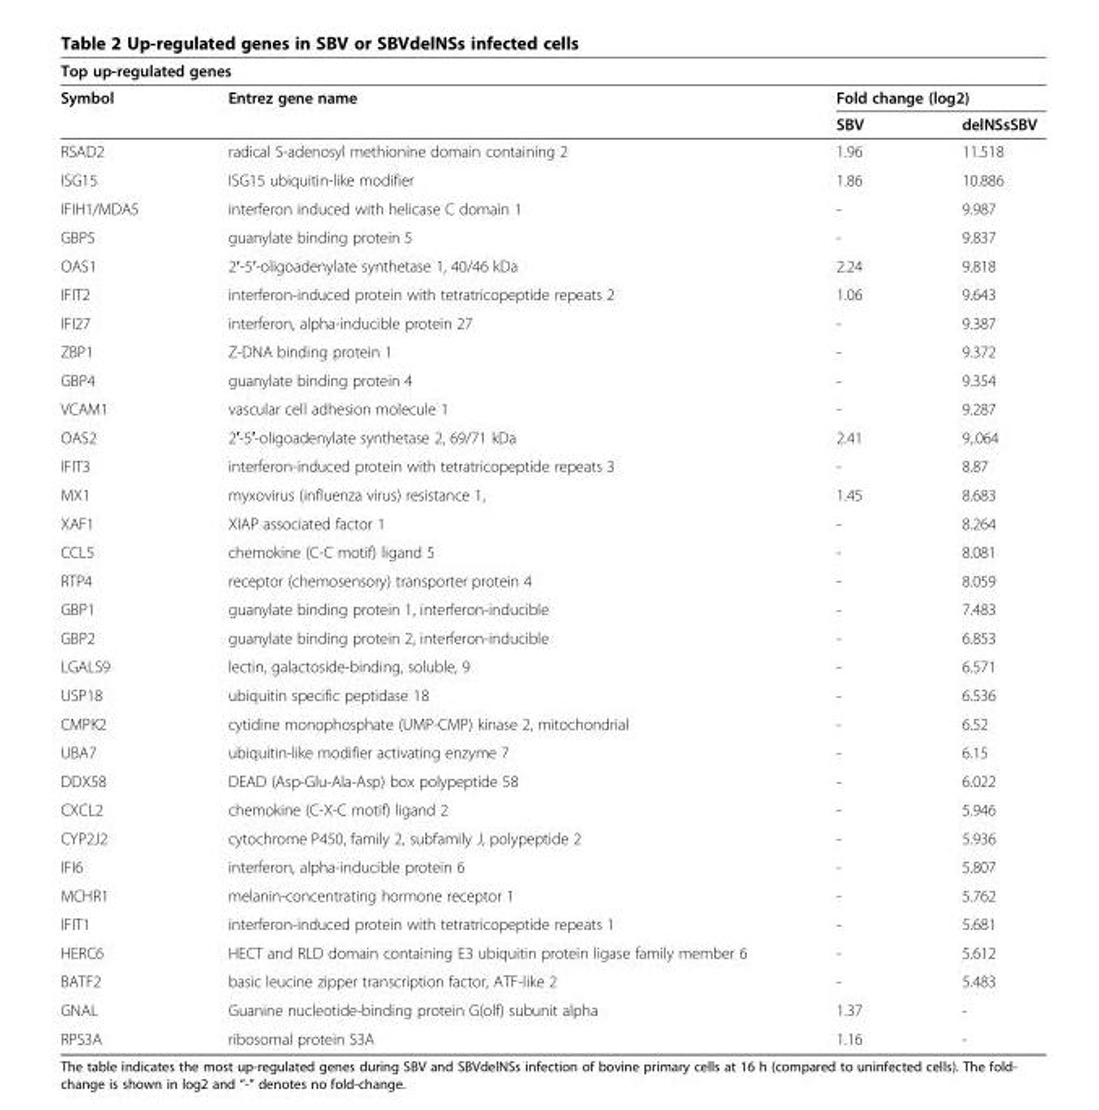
<table><thead><tr><td colspan="4">Top up-regulated genes</td></tr><tr><td rowspan="2">Symbol</td><td rowspan="2">Entrez gene name</td><td colspan="2">Fold change (log2)</td></tr><tr><td>SBV</td><td>delNSsSBV</td></tr></thead><tbody><tr><td>RSAD2</td><td>radical S-adenosyl methionine domain containing 2</td><td>1.96</td><td>11.518</td></tr><tr><td>ISG15</td><td>ISG15 ubiquitin-like modifier</td><td>1.86</td><td>10.886</td></tr><tr><td>IFIH1/MDA5</td><td>interferon induced with helicase C domain 1</td><td>-</td><td>9.987</td></tr><tr><td>GBP5</td><td>guanylate binding protein 5</td><td>-</td><td>9.837</td></tr><tr><td>OAS1</td><td>2′-5′-oligoadenylate synthetase 1, 40/46 kDa</td><td>2.24</td><td>9.818</td></tr><tr><td>IFIT2</td><td>interferon-induced protein with tetratricopeptide repeats 2</td><td>1.06</td><td>9.643</td></tr><tr><td>IFI27</td><td>interferon, alpha-inducible protein 27</td><td>-</td><td>9.387</td></tr><tr><td>ZBP1</td><td>Z-DNA binding protein 1</td><td>-</td><td>9.372</td></tr><tr><td>GBP4</td><td>guanylate binding protein 4</td><td>-</td><td>9.354</td></tr><tr><td>VCAM1</td><td>vascular cell adhesion molecule 1</td><td>-</td><td>9.287</td></tr><tr><td>OAS2</td><td>2′-5′-oligoadenylate synthetase 2, 69/71 kDa</td><td>2.41</td><td>9,.064</td></tr><tr><td>IFIT3</td><td>interferon-induced protein with tetratricopeptide repeats 3</td><td>-</td><td>8.87</td></tr><tr><td>MX1</td><td>myxovirus (influenza virus) resistance 1,</td><td>1.45</td><td>8.683</td></tr><tr><td>XAF1</td><td>XIAP associated factor 1</td><td>-</td><td>8.264</td></tr><tr><td>CCL5</td><td>chemokine (C-C motif) ligand 5</td><td>-</td><td>8.081</td></tr><tr><td>RTP4</td><td>receptor (chemosensory) transporter protein 4</td><td>-</td><td>8.059</td></tr><tr><td>GBP1</td><td>guanylate binding protein 1, interferon-inducible</td><td>-</td><td>7.483</td></tr><tr><td>GBP2</td><td>guanylate binding protein 2, interferon-inducible</td><td>-</td><td>6.853</td></tr><tr><td>LGALS9</td><td>lectin, galactoside-binding, soluble, 9</td><td>-</td><td>6.571</td></tr><tr><td>USP18</td><td>ubiquitin specific peptidase 18</td><td>-</td><td>6.536</td></tr><tr><td>CMPK2</td><td>cytidine monophosphate (UMP-CMP) kinase 2, mitochondrial</td><td>-</td><td>6.52</td></tr><tr><td>UBA7</td><td>ubiquitin-like modifier activating enzyme 7</td><td>-</td><td>6.15</td></tr><tr><td>DDX58</td><td>DEAD (Asp-Glu-Ala-Asp) box polypeptide 58</td><td>-</td><td>6.022</td></tr><tr><td>CXCL2</td><td>chemokine (C-X-C motif) ligand 2</td><td>-</td><td>5.946</td></tr><tr><td>CYP2J2</td><td>cytochrome P450, family 2, subfamily J, polypeptide 2</td><td>-</td><td>5.936</td></tr><tr><td>IFI6</td><td>interferon, alpha-inducible protein 6</td><td>-</td><td>5.807</td></tr><tr><td>MCHR1</td><td>melanin-concentrating hormone receptor 1</td><td>-</td><td>5.762</td></tr><tr><td>IFIT1</td><td>interferon-induced protein with tetratricopeptide repeats 1</td><td>-</td><td>5.681</td></tr><tr><td>HERC6</td><td>HECT and RLD domain containing E3 ubiquitin protein ligase family member 6</td><td>-</td><td>5.612</td></tr><tr><td>BATF2</td><td>basic leucine zipper transcription factor, ATF-like 2</td><td>-</td><td>5.483</td></tr><tr><td>GNAL</td><td>Guanine nucleotide-binding protein G(olf) subunit alpha</td><td>1.37</td><td>-</td></tr><tr><td>RPS3A</td><td>ribosomal protein S3A</td><td>1.16</td><td>-</td></tr></tbody></table>